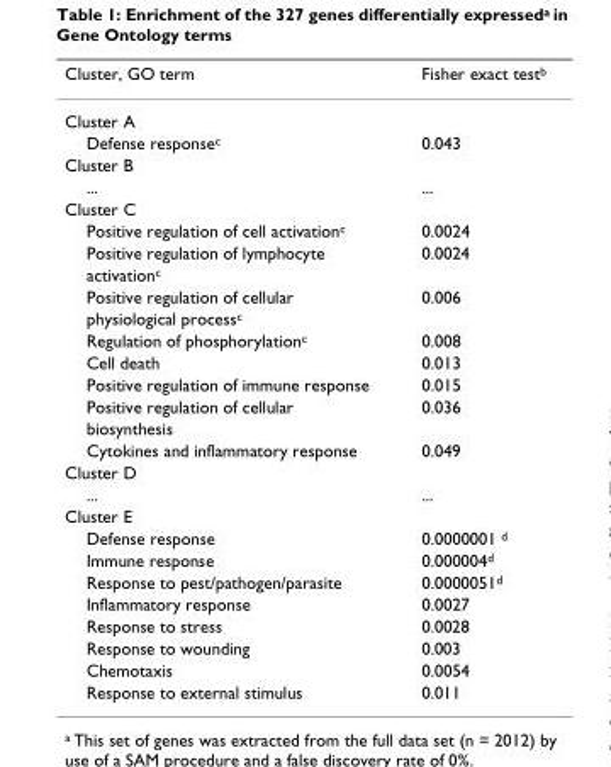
<table><thead><tr><td>Cluster, GO term</td><td>Fisher exact test<sup>b</sup></td></tr></thead><tbody><tr><td colspan="2">Cluster A</td></tr><tr><td>Defense response<sup>c</sup></td><td>0.043</td></tr><tr><td colspan="2">Cluster B</td></tr><tr><td>...</td><td>...</td></tr><tr><td colspan="2">Cluster C</td></tr><tr><td>Positive regulation of cell activation<sup>c</sup></td><td>0.0024</td></tr><tr><td>Positive regulation of lymphocyte</td><td>0.0024</td></tr><tr><td colspan="2">activation<sup>c</sup></td></tr><tr><td>Positive regulation of cellular</td><td>0.006</td></tr><tr><td colspan="2">physiological process<sup>c</sup></td></tr><tr><td>Regulation of phosphorylation<sup>c</sup></td><td>0.008</td></tr><tr><td>Cell death</td><td>0.013</td></tr><tr><td>Positive regulation of immune response</td><td>0.015</td></tr><tr><td>Positive regulation of cellular</td><td>0.036</td></tr><tr><td colspan="2">biosynthesis</td></tr><tr><td>Cytokines and inflammatory response</td><td>0.049</td></tr><tr><td colspan="2">Cluster D</td></tr><tr><td>...</td><td>...</td></tr><tr><td colspan="2">Cluster E</td></tr><tr><td>Defense response</td><td>0.0000001 <sup>d</sup></td></tr><tr><td>Immune response</td><td>0.000004<sup>d</sup></td></tr><tr><td>Response to pest/pathogen/parasite</td><td>0.0000051<sup>d</sup></td></tr><tr><td>Inflammatory response</td><td>0.0027</td></tr><tr><td>Response to stress</td><td>0.0028</td></tr><tr><td>Response to wounding</td><td>0.003</td></tr><tr><td>Chemotaxis</td><td>0.0054</td></tr><tr><td>Response to external stimulus</td><td>0.011</td></tr></tbody></table>